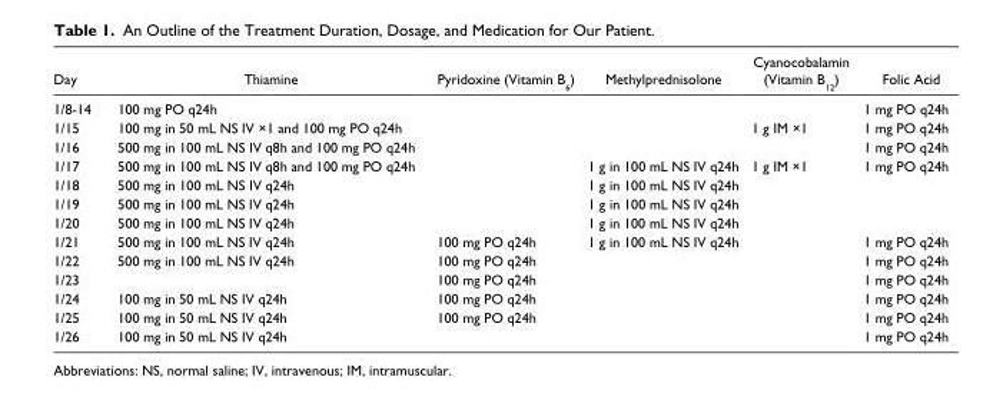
<table><thead><tr><td>Day</td><td>Thiamine</td><td>Pyridoxine (Vitamin B<sub>6</sub>)</td><td>Methylprednisolone</td><td>Cyanocobalamin (Vitamin B<sub>12</sub>)</td><td>Folic Acid</td></tr></thead><tbody><tr><td>1/8-14</td><td>100 mg PO q24h</td><td></td><td></td><td></td><td>1 mg PO q24h</td></tr><tr><td>1/15</td><td>100 mg in 50 mL NS IV ×1 and 100 mg PO q24h</td><td></td><td></td><td>1 g IM ×1</td><td>1 mg PO q24h</td></tr><tr><td>1/16</td><td>500 mg in 100 mL NS IV q8h and 100 mg PO q24h</td><td></td><td></td><td></td><td>1 mg PO q24h</td></tr><tr><td>1/17</td><td>500 mg in 100 mL NS IV q8h and 100 mg PO q24h</td><td></td><td>1 g in 100 mL NS IV q24h</td><td>1 g IM ×1</td><td>1 mg PO q24h</td></tr><tr><td>1/18</td><td>500 mg in 100 mL NS IV q24h</td><td></td><td>1 g in 100 mL NS IV q24h</td><td></td><td></td></tr><tr><td>1/19</td><td>500 mg in 100 mL NS IV q24h</td><td></td><td>1 g in 100 mL NS IV q24h</td><td></td><td></td></tr><tr><td>1/20</td><td>500 mg in 100 mL NS IV q24h</td><td></td><td>1 g in 100 mL NS IV q24h</td><td></td><td></td></tr><tr><td>1/21</td><td>500 mg in 100 mL NS IV q24h</td><td>100 mg PO q24h</td><td>1 g in 100 mL NS IV q24h</td><td></td><td>1 mg PO q24h</td></tr><tr><td>1/22</td><td>500 mg in 100 mL NS IV q24h</td><td>100 mg PO q24h</td><td></td><td></td><td>1 mg PO q24h</td></tr><tr><td>1/23</td><td></td><td>100 mg PO q24h</td><td></td><td></td><td>1 mg PO q24h</td></tr><tr><td>1/24</td><td>100 mg in 50 mL NS IV q24h</td><td>100 mg PO q24h</td><td></td><td></td><td>1 mg PO q24h</td></tr><tr><td>1/25</td><td>100 mg in 50 mL NS IV q24h</td><td>100 mg PO q24h</td><td></td><td></td><td>1 mg PO q24h</td></tr><tr><td>1/26</td><td>100 mg in 50 mL NS IV q24h</td><td></td><td></td><td></td><td>1 mg PO q24h</td></tr></tbody></table>